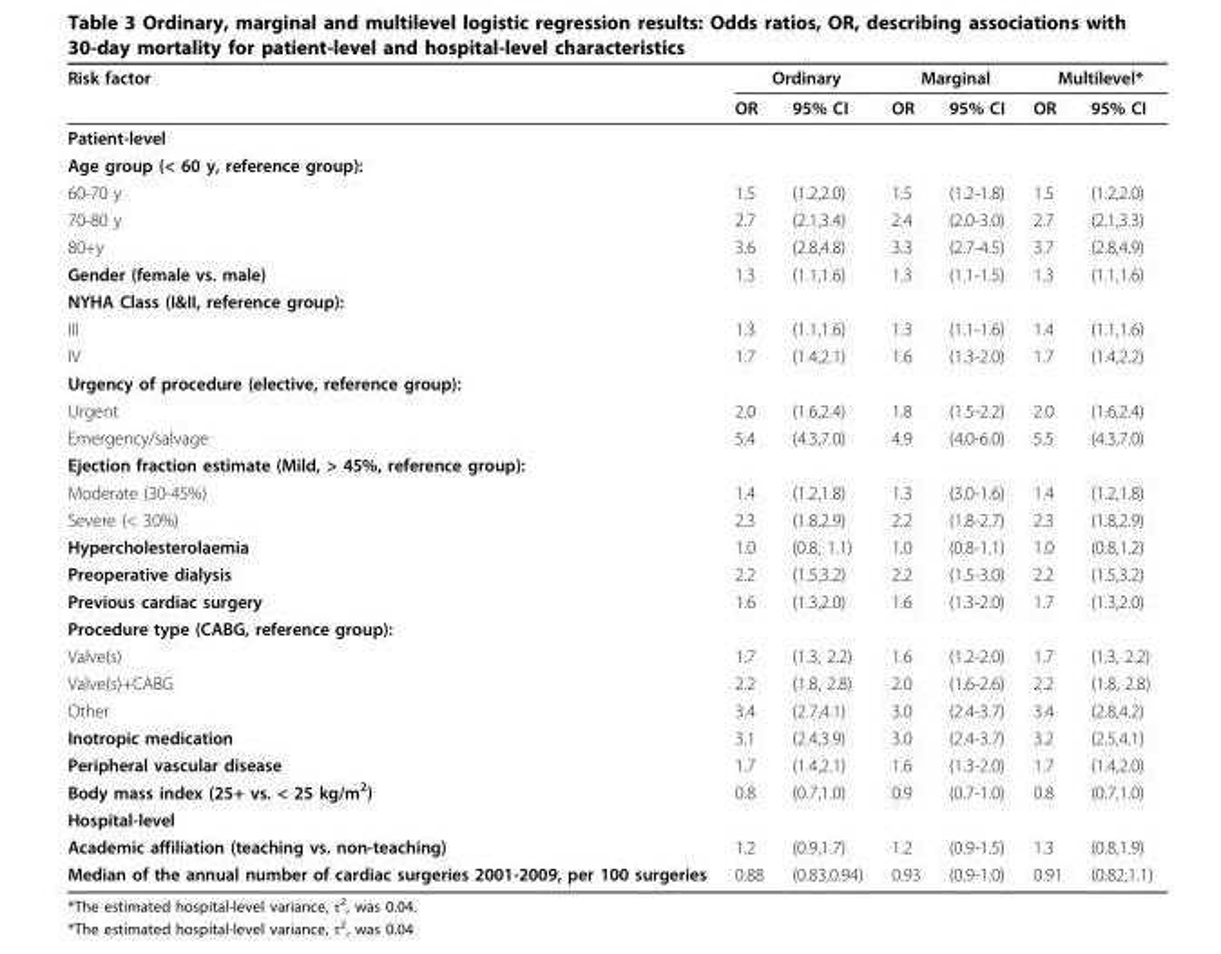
<table><thead><tr><td rowspan="2">Risk factor</td><td colspan="2">Ordinary</td><td colspan="2">Marginal</td><td colspan="2">Multilevel*</td></tr><tr><td>OR</td><td>95% CI</td><td>OR</td><td>95% CI</td><td>OR</td><td>95% CI</td></tr></thead><tbody><tr><td colspan="7">Patient-level</td></tr><tr><td colspan="7">Age group (&lt; 60 y, reference group):</td></tr><tr><td>60-70 y</td><td>1.5</td><td>(1.2,2.0)</td><td>1.5</td><td>(1.2-1.8)</td><td>1.5</td><td>(1.2,2.0)</td></tr><tr><td>70-80 y</td><td>2.7</td><td>(2.1,3.4)</td><td>2.4</td><td>(2.0-3.0)</td><td>2.7</td><td>(2.1,3.3)</td></tr><tr><td>80+y</td><td>3.6</td><td>(2.8,4.8)</td><td>3.3</td><td>(2.7-4.5)</td><td>3.7</td><td>(2.8,4.9)</td></tr><tr><td>Gender (female vs. male)</td><td>1.3</td><td>(1.1,1.6)</td><td>1.3</td><td>(1.1-1.5)</td><td>1.3</td><td>(1.1,1.6)</td></tr><tr><td colspan="7">NYHA Class (I&amp;II, reference group):</td></tr><tr><td>III</td><td>1.3</td><td>(1.1,1.6)</td><td>1.3</td><td>(1.1-1.6)</td><td>1.4</td><td>(1.1,1.6)</td></tr><tr><td>IV</td><td>1.7</td><td>(1.4,2.1)</td><td>1.6</td><td>(1.3-2.0)</td><td>1.7</td><td>(1.4,2.2)</td></tr><tr><td colspan="7">Urgency of procedure (elective, reference group):</td></tr><tr><td>Urgent</td><td>2.0</td><td>(1.6,2.4)</td><td>1.8</td><td>(1.5-2.2)</td><td>2.0</td><td>(1.6,2.4)</td></tr><tr><td>Emergency/salvage</td><td>5.4</td><td>(4.3,7.0)</td><td>4.9</td><td>(4.0-6.0)</td><td>5.5</td><td>(4.3,7.0)</td></tr><tr><td colspan="7">Ejection fraction estimate (Mild, &gt; 45%, reference group):</td></tr><tr><td>Moderate (30-45%)</td><td>1.4</td><td>(1.2,1.8)</td><td>1.3</td><td>(3.0-1.6)</td><td>1.4</td><td>(1.2,1.8)</td></tr><tr><td>Severe (&lt; 30%)</td><td>2.3</td><td>(1.8,2.9)</td><td>2.2</td><td>(1.8-2.7)</td><td>2.3</td><td>(1.8,2.9)</td></tr><tr><td>Hypercholesterolaemia</td><td>1.0</td><td>(0.8, 1.1)</td><td>1.0</td><td>(0.8-1.1)</td><td>1.0</td><td>(0.8,1.2)</td></tr><tr><td>Preoperative dialysis</td><td>2.2</td><td>(1.5,3.2)</td><td>2.2</td><td>(1.5-3.0)</td><td>2.2</td><td>(1.5,3.2)</td></tr><tr><td>Previous cardiac surgery</td><td>1.6</td><td>(1.3,2.0)</td><td>1.6</td><td>(1.3-2.0)</td><td>1.7</td><td>(1.3,2.0)</td></tr><tr><td colspan="7">Procedure type (CABG, reference group):</td></tr><tr><td>Valve(s)</td><td>1.7</td><td>(1.3, 2.2)</td><td>1.6</td><td>(1.2-2.0)</td><td>1.7</td><td>(1.3, 2.2)</td></tr><tr><td>Valve(s)+CABG</td><td>2.2</td><td>(1.8, 2.8)</td><td>2.0</td><td>(1.6-2.6)</td><td>2.2</td><td>(1.8, 2.8)</td></tr><tr><td>Other</td><td>3.4</td><td>(2.7,4.1)</td><td>3.0</td><td>(2.4-3.7)</td><td>3.4</td><td>(2.8,4.2)</td></tr><tr><td>Inotropic medication</td><td>3.1</td><td>(2.4,3.9)</td><td>3.0</td><td>(2.4-3.7)</td><td>3.2</td><td>(2.5,4.1)</td></tr><tr><td>Peripheral vascular disease</td><td>1.7</td><td>(1.4,2.1)</td><td>1.6</td><td>(1.3-2.0)</td><td>1.7</td><td>(1.4,2.0)</td></tr><tr><td>Body mass index (25+ vs. &lt; 25 kg/m<sup>2</sup>)</td><td>0.8</td><td>(0.7,1.0)</td><td>0.9</td><td>(0.7-1.0)</td><td>0.8</td><td>(0.7,1.0)</td></tr><tr><td colspan="7">Hospital-level</td></tr><tr><td>Academic affiliation (teaching vs. non-teaching)</td><td>1.2</td><td>(0.9,1.7)</td><td>1.2</td><td>(0.9-1.5)</td><td>1.3</td><td>(0.8,1.9)</td></tr><tr><td>Median of the annual number of cardiac surgeries 2001-2009, per 100 surgeries</td><td>0.88</td><td>(0.83,0.94)</td><td>0.93</td><td>(0.9-1.0)</td><td>0.91</td><td>(0.82,1.1)</td></tr></tbody></table>